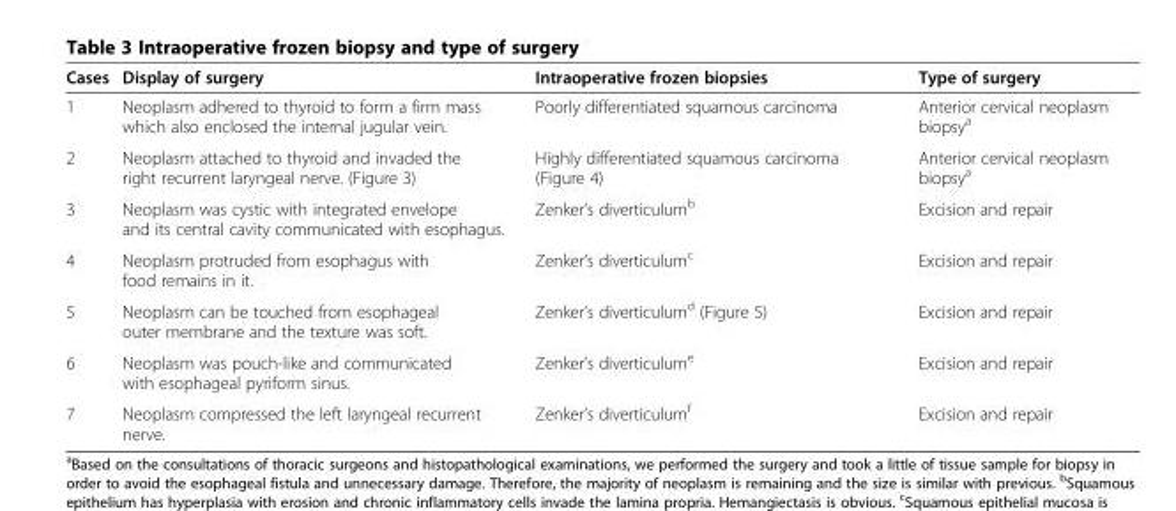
<table><thead><tr><td>Cases</td><td>Display of surgery</td><td>Intraoperative frozen biopsies</td><td>Type of surgery</td></tr></thead><tbody><tr><td>1</td><td>Neoplasm adhered to thyroid to form a firm mass which also enclosed the internal jugular vein.</td><td>Poorly differentiated squamous carcinoma</td><td>Anterior cervical neoplasm biopsy<sup>a</sup></td></tr><tr><td>2</td><td>Neoplasm attached to thyroid and invaded the right recurrent laryngeal nerve. (Figure 3)</td><td>Highly differentiated squamous carcinoma (Figure 4)</td><td>Anterior cervical neoplasm biopsy<sup>a</sup></td></tr><tr><td>3</td><td>Neoplasm was cystic with integrated envelope and its central cavity communicated with esophagus.</td><td>Zenker’s diverticulum<sup>b</sup></td><td>Excision and repair</td></tr><tr><td>4</td><td>Neoplasm protruded from esophagus with food remains in it.</td><td>Zenker’s diverticulum<sup>c</sup></td><td>Excision and repair</td></tr><tr><td>5</td><td>Neoplasm can be touched from esophageal outer membrane and the texture was soft.</td><td>Zenker’s diverticulum<sup>d</sup> (Figure 5)</td><td>Excision and repair</td></tr><tr><td>6</td><td>Neoplasm was pouch-like and communicated with esophageal pyriform sinus.</td><td>Zenker’s diverticulum<sup>e</sup></td><td>Excision and repair</td></tr><tr><td>7</td><td>Neoplasm compressed the left laryngeal recurrent nerve.</td><td>Zenker’s diverticulum<sup>f</sup></td><td>Excision and repair</td></tr></tbody></table>